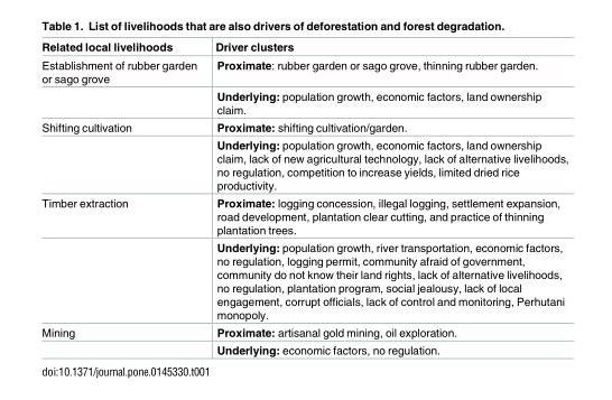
<table><thead><tr><td>Related local livelihoods</td><td>Driver clusters</td></tr></thead><tbody><tr><td rowspan="2">Establishment of rubber garden or sago grove</td><td>Proximate: rubber garden or sago grove, thinning rubber garden.</td></tr><tr><td>Underlying: population growth, economic factors, land ownership claim.</td></tr><tr><td rowspan="2">Shifting cultivation</td><td>Proximate: shifting cultivation/garden.</td></tr><tr><td>Underlying: population growth, economic factors, land ownership claim, lack of new agricultural technology, lack of alternative livelihoods, no regulation, competition to increase yields, limited dried rice productivity.</td></tr><tr><td rowspan="2">Timber extraction</td><td>Proximate: logging concession, illegal logging, settlement expansion, road development, plantation clear cutting, and practice of thinning plantation trees.</td></tr><tr><td>Underlying: population growth, river transportation, economic factors, no regulation, logging permit, community afraid of government, community do not know their land rights, lack of alternative livelihoods, no regulation, plantation program, social jealousy, lack of local engagement, corrupt officials, lack of control and monitoring, Perhutani monopoly.</td></tr><tr><td rowspan="2">Mining</td><td>Proximate: artisanal gold mining, oil exploration.</td></tr><tr><td>Underlying: economic factors, no regulation.</td></tr></tbody></table>